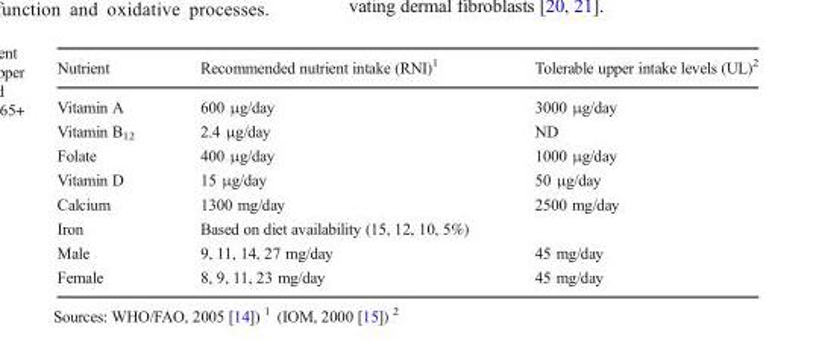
<table><thead><tr><td>Nutrient</td><td>Recommended nutrient intake (RNI)<sup>1</sup></td><td>Tolerable upper intake levels (UL)<sup>2</sup></td></tr></thead><tbody><tr><td>Vitamin A</td><td>600 μg/day</td><td>3000 μg/day</td></tr><tr><td>Vitamin B<sub>12</sub></td><td>2.4 μg/day</td><td>ND</td></tr><tr><td>Folate</td><td>400 μg/day</td><td>1000 μg/day</td></tr><tr><td>Vitamin D</td><td>15 μg/day</td><td>50 μg/day</td></tr><tr><td>Calcium</td><td>1300 mg/day</td><td>2500 mg/day</td></tr><tr><td>Iron</td><td>Based on diet availability (15, 12, 10, 5%)</td><td></td></tr><tr><td>Male</td><td>9, 11, 14, 27 mg/day</td><td>45 mg/day</td></tr><tr><td>Female</td><td>8, 9, 11, 23 mg/day</td><td>45 mg/day</td></tr></tbody></table>